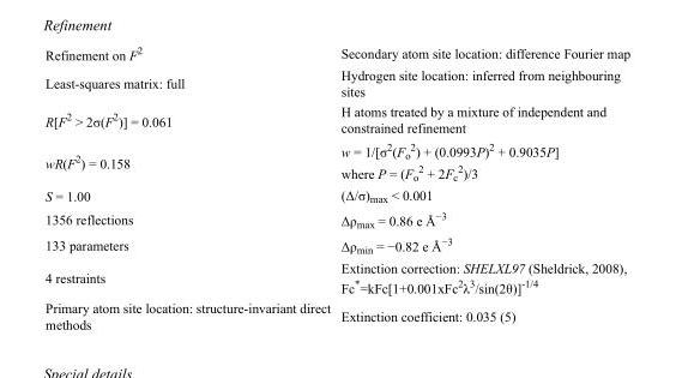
<table><tbody><tr><td>Refinement on F<sup>2</sup></td><td>Secondary atom site location: difference Fourier map</td></tr><tr><td>Least-squares matrix: full</td><td>Hydrogen site location: inferred from neighbouring sites</td></tr><tr><td>R[F<sup>2</sup> &gt; 2σ(F<sup>2</sup>)] = 0.061</td><td>H atoms treated by a mixture of independent and constrained refinement</td></tr><tr><td>wR(F<sup>2</sup>) = 0.158</td><td>w = 1/[σ<sup>2</sup>(F<sub>o</sub> <sup>2</sup>) + (0.0993P)<sup>2</sup> + 0.9035P] where P = (F<sub>o</sub> <sup>2</sup> + 2F<sub>c</sub> <sup>2</sup>)/3</td></tr><tr><td>S = 1.00</td><td>(Δ/σ)<sub>max</sub> &lt; 0.001</td></tr><tr><td>1356 reflections</td><td>Δρ<sub>max</sub> = 0.86 e Å<sup>−3</sup></td></tr><tr><td>133 parameters</td><td>Δρ<sub>min</sub> = −0.82 e Å<sup>−3</sup></td></tr><tr><td>4 restraints</td><td>Extinction correction: SHELXL97 (Sheldrick, 2008), Fc*=kFc[1+0.001xFc<sup>2</sup>λ<sup>3</sup>/sin(2θ)]<sup>-1/4</sup></td></tr><tr><td>Primary atom site location: structure-invariant direct methods</td><td>Extinction coefficient: 0.035 (5)</td></tr></tbody></table>